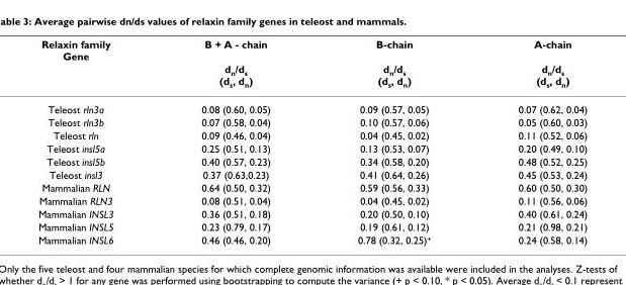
<table><thead><tr><td rowspan="2">Relaxin family Gene</td><td rowspan="2">B + A - chain d<sub>n</sub>/d<sub>s</sub> (d<sub>s</sub>, d<sub>n</sub>)</td><td rowspan="2">B-chain d<sub>n</sub>/d<sub>s</sub> (d<sub>s</sub>, d<sub>n</sub>)</td><td rowspan="2">A-chain d<sub>n</sub>/d<sub>s</sub> (d<sub>s</sub>, d<sub>n</sub>)</td></tr><tr></tr></thead><tbody><tr><td>Teleost rln3a</td><td>0.08 (0.60, 0.05)</td><td>0.09 (0.57, 0.05)</td><td>0.07 (0.62, 0.04)</td></tr><tr><td>Teleost rln3b</td><td>0.07 (0.58, 0.04)</td><td>0.10 (0.57, 0.06)</td><td>0.05 (0.60, 0.03)</td></tr><tr><td>Teleost rln</td><td>0.09 (0.46, 0.04)</td><td>0.04 (0.45, 0.02)</td><td>0.11 (0.52, 0.06)</td></tr><tr><td>Teleost insl5a</td><td>0.25 (0.51, 0.13)</td><td>0.13 (0.53, 0.07)</td><td>0.20 (0.49, 0.10)</td></tr><tr><td>Teleost insl5b</td><td>0.40 (0.57, 0.23)</td><td>0.34 (0.58, 0.20)</td><td>0.48 (0.52, 0.25)</td></tr><tr><td>Teleost insl3</td><td>0.37 (0.63,0.23)</td><td>0.41 (0.64, 0.26)</td><td>0.45 (0.53, 0.24)</td></tr><tr><td>Mammalian RLN</td><td>0.64 (0.50, 0.32)</td><td>0.59 (0.56, 0.33)</td><td>0.60 (0.50, 0.30)</td></tr><tr><td>Mammalian RLN3</td><td>0.08 (0.51, 0.04)</td><td>0.04 (0.45, 0.02)</td><td>0.11 (0.56, 0.06)</td></tr><tr><td>Mammalian INSL3</td><td>0.36 (0.51, 0.18)</td><td>0.20 (0.50, 0.10)</td><td>0.40 (0.61, 0.24)</td></tr><tr><td>Mammalian INSL5</td><td>0.23 (0.79, 0.17)</td><td>0.19 (0.61, 0.12)</td><td>0.21 (0.98, 0.21)</td></tr><tr><td>Mammalian INSL6</td><td>0.46 (0.46, 0.20)</td><td>0.78 (0.32, 0.25)<sup>+</sup></td><td>0.24 (0.58, 0.14)</td></tr></tbody></table>